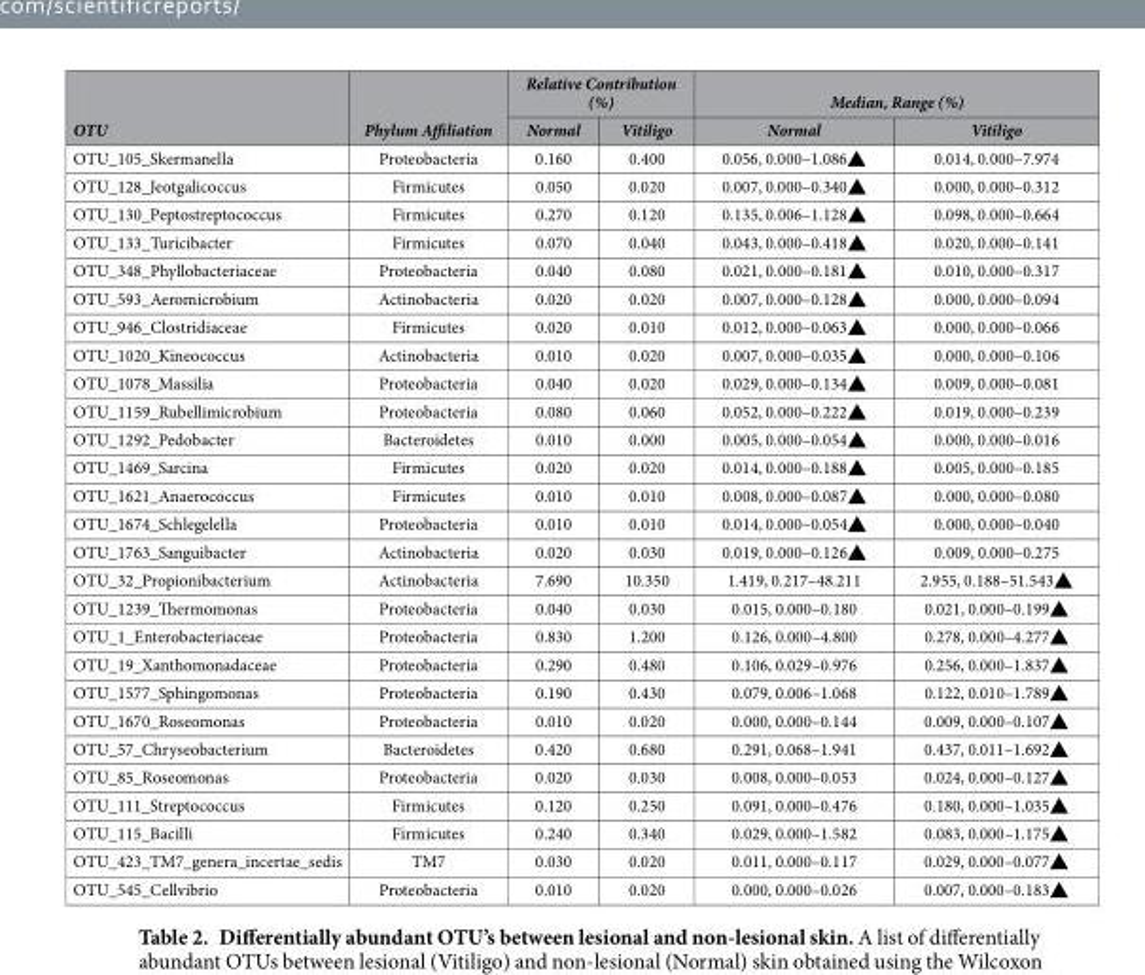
<table><thead><tr><td rowspan="2">OTU</td><td rowspan="2">Phylum Affiliation</td><td colspan="2">Relative Contribution (%)</td><td colspan="2">Median, Range (%)</td></tr><tr><td>Normal</td><td>Vitiligo</td><td>Normal</td><td>Vitiligo</td></tr></thead><tbody><tr><td>OTU_105_Skermanella</td><td>Proteobacteria</td><td>0.160</td><td>0.400</td><td>0.056, 0.000–1.086▲</td><td>0.014, 0.000–7.974</td></tr><tr><td>OTU_128_Jeotgalicoccus</td><td>Firmicutes</td><td>0.050</td><td>0.020</td><td>0.007, 0.000–0.340▲</td><td>0.000, 0.000–0.312</td></tr><tr><td>OTU_130_Peptostreptococcus</td><td>Firmicutes</td><td>0.270</td><td>0.120</td><td>0.135, 0.006–1.128▲</td><td>0.098, 0.000–0.664</td></tr><tr><td>OTU_133_Turicibacter</td><td>Firmicutes</td><td>0.070</td><td>0.040</td><td>0.043, 0.000–0.418▲</td><td>0.020, 0.000–0.141</td></tr><tr><td>OTU_348_Phyllobacteriaceae</td><td>Proteobacteria</td><td>0.040</td><td>0.080</td><td>0.021, 0.000–0.181▲</td><td>0.010, 0.000–0.317</td></tr><tr><td>OTU_593_Aeromicrobium</td><td>Actinobacteria</td><td>0.020</td><td>0.020</td><td>0.007, 0.000–0.128▲</td><td>0.000, 0.000–0.094</td></tr><tr><td>OTU_946_Clostridiaceae</td><td>Firmicutes</td><td>0.020</td><td>0.010</td><td>0.012, 0.000–0.063▲</td><td>0.000, 0.000–0.066</td></tr><tr><td>OTU_1020_Kineococcus</td><td>Actinobacteria</td><td>0.010</td><td>0.020</td><td>0.007, 0.000–0.035▲</td><td>0.000, 0.000–0.106</td></tr><tr><td>OTU_1078_Massilia</td><td>Proteobacteria</td><td>0.040</td><td>0.020</td><td>0.029, 0.000–0.134▲</td><td>0.009, 0.000–0.081</td></tr><tr><td>OTU_1159_Rubellimicrobium</td><td>Proteobacteria</td><td>0.080</td><td>0.060</td><td>0.052, 0.000–0.222▲</td><td>0.019, 0.000–0.239</td></tr><tr><td>OTU_1292_Pedobacter</td><td>Bacteroidetes</td><td>0.010</td><td>0.000</td><td>0.005, 0.000–0.054▲</td><td>0.000, 0.000–0.016</td></tr><tr><td>OTU_1469_Sarcina</td><td>Firmicutes</td><td>0.020</td><td>0.020</td><td>0.014, 0.000–0.188▲</td><td>0.005, 0.000–0.185</td></tr><tr><td>OTU_1621_Anaerococcus</td><td>Firmicutes</td><td>0.010</td><td>0.010</td><td>0.008, 0.000–0.087▲</td><td>0.000, 0.000–0.080</td></tr><tr><td>OTU_1674_Schlegelella</td><td>Proteobacteria</td><td>0.010</td><td>0.010</td><td>0.014, 0.000–0.054▲</td><td>0.000, 0.000–0.040</td></tr><tr><td>OTU_1763_Sanguibacter</td><td>Actinobacteria</td><td>0.020</td><td>0.030</td><td>0.019, 0.000–0.126▲</td><td>0.009, 0.000–0.275</td></tr><tr><td>OTU_32_Propionibacterium</td><td>Actinobacteria</td><td>7.690</td><td>10.350</td><td>1.419, 0.217–48.211</td><td>2.955, 0.188–51.543▲</td></tr><tr><td>OTU_1239_Thermomonas</td><td>Proteobacteria</td><td>0.040</td><td>0.030</td><td>0.015, 0.000–0.180</td><td>0.021, 0.000–0.199▲</td></tr><tr><td>OTU_1_Enterobacteriaceae</td><td>Proteobacteria</td><td>0.830</td><td>1.200</td><td>0.126, 0.000–4.800</td><td>0.278, 0.000–4.277▲</td></tr><tr><td>OTU_19_Xanthomonadaceae</td><td>Proteobacteria</td><td>0.290</td><td>0.480</td><td>0.106, 0.029–0.976</td><td>0.256, 0.000–1.837▲</td></tr><tr><td>OTU_1577_Sphingomonas</td><td>Proteobacteria</td><td>0.190</td><td>0.430</td><td>0.079, 0.006–1.068</td><td>0.122, 0.010–1.789▲</td></tr><tr><td>OTU_1670_Roseomonas</td><td>Proteobacteria</td><td>0.010</td><td>0.020</td><td>0.000, 0.000–0.144</td><td>0.009, 0.000–0.107▲</td></tr><tr><td>OTU_57_Chryseobacterium</td><td>Bacteroidetes</td><td>0.420</td><td>0.680</td><td>0.291, 0.068–1.941</td><td>0.437, 0.011–1.692▲</td></tr><tr><td>OTU_85_Roseomonas</td><td>Proteobacteria</td><td>0.020</td><td>0.030</td><td>0.008, 0.000–0.053</td><td>0.024, 0.000–0.127▲</td></tr><tr><td>OTU_111_Streptococcus</td><td>Firmicutes</td><td>0.120</td><td>0.250</td><td>0.091, 0.000–0.476</td><td>0.180, 0.000–1.035▲</td></tr><tr><td>OTU_115_Bacilli</td><td>Firmicutes</td><td>0.240</td><td>0.340</td><td>0.029, 0.000–1.582</td><td>0.083, 0.000–1.175▲</td></tr><tr><td>OTU_423_TM7_genera_incertae_sedis</td><td>TM7</td><td>0.030</td><td>0.020</td><td>0.011, 0.000–0.117</td><td>0.029, 0.000–0.077▲</td></tr><tr><td>OTU_545_Cellvibrio</td><td>Proteobacteria</td><td>0.010</td><td>0.020</td><td>0.000, 0.000–0.026</td><td>0.007, 0.000–0.183▲</td></tr></tbody></table>